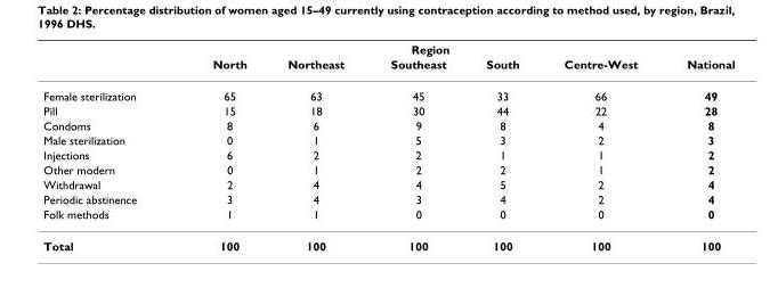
<table><thead><tr><td rowspan="2"></td><td colspan="5">Region</td><td rowspan="2">National</td></tr><tr><td>North</td><td>Northeast</td><td>Southeast</td><td>South</td><td>Centre-West</td></tr></thead><tbody><tr><td>Female sterilization</td><td>65</td><td>63</td><td>45</td><td>33</td><td>66</td><td>49</td></tr><tr><td>Pill</td><td>15</td><td>18</td><td>30</td><td>44</td><td>22</td><td>28</td></tr><tr><td>Condoms</td><td>8</td><td>6</td><td>9</td><td>8</td><td>4</td><td>8</td></tr><tr><td>Male sterilization</td><td>0</td><td>1</td><td>5</td><td>3</td><td>2</td><td>3</td></tr><tr><td>Injections</td><td>6</td><td>2</td><td>2</td><td>1</td><td>1</td><td>2</td></tr><tr><td>Other modern</td><td>0</td><td>1</td><td>2</td><td>2</td><td>1</td><td>2</td></tr><tr><td>Withdrawal</td><td>2</td><td>4</td><td>4</td><td>5</td><td>2</td><td>4</td></tr><tr><td>Periodic abstinence</td><td>3</td><td>4</td><td>3</td><td>4</td><td>2</td><td>4</td></tr><tr><td>Folk methods</td><td>1</td><td>1</td><td>0</td><td>0</td><td>0</td><td>0</td></tr><tr><td>Total</td><td>100</td><td>100</td><td>100</td><td>100</td><td>100</td><td>100</td></tr></tbody></table>